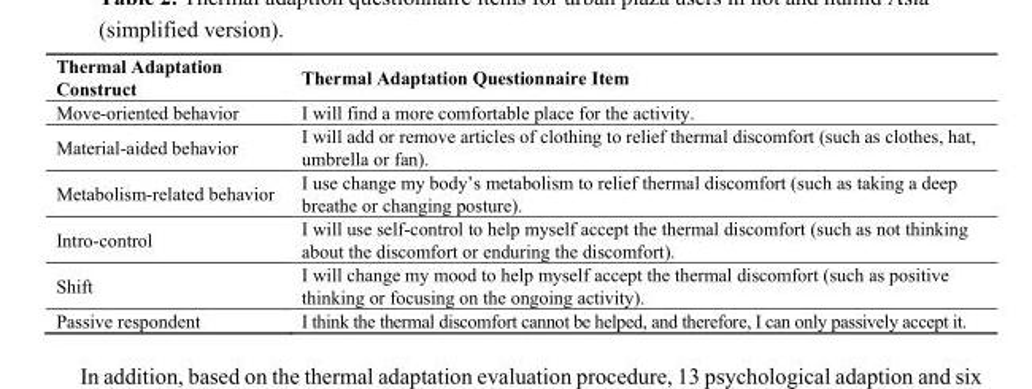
<table><thead><tr><td>Thermal Adaptation Construct</td><td>Thermal Adaptation Questionnaire Item</td></tr></thead><tbody><tr><td>Move-oriented behavior</td><td>I will find a more comfortable place for the activity.</td></tr><tr><td>Material-aided behavior</td><td>I will add or remove articles of clothing to relief thermal discomfort (such as clothes, hat, umbrella or fan).</td></tr><tr><td>Metabolism-related behavior</td><td>I use change my body’s metabolism to relief thermal discomfort (such as taking a deep breathe or changing posture).</td></tr><tr><td>Intro-control</td><td>I will use self-control to help myself accept the thermal discomfort (such as not thinking about the discomfort or enduring the discomfort).</td></tr><tr><td>Shift</td><td>I will change my mood to help myself accept the thermal discomfort (such as positive thinking or focusing on the ongoing activity).</td></tr><tr><td>Passive respondent</td><td>I think the thermal discomfort cannot be helped, and therefore, I can only passively accept it.</td></tr></tbody></table>